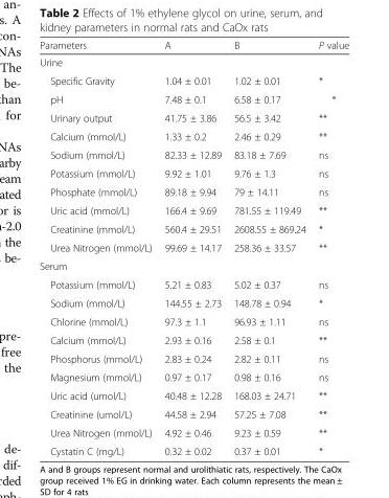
<table><thead><tr><td>Parameters</td><td>A</td><td>B</td><td>P value</td></tr></thead><tbody><tr><td colspan="4">Urine</td></tr><tr><td>Specific Gravity</td><td>1.04 ± 0.01</td><td>1.02 ± 0.01</td><td>*</td></tr><tr><td>pH</td><td>7.48 ± 0.1</td><td>6.58 ± 0.17</td><td>*</td></tr><tr><td>Urinary output</td><td>41.75 ± 3.86</td><td>56.5 ± 3.42</td><td>**</td></tr><tr><td>Calcium (mmol/L)</td><td>1.33 ± 0.2</td><td>2.46 ± 0.29</td><td>**</td></tr><tr><td>Sodium (mmol/L)</td><td>82.33 ± 12.89</td><td>83.18 ± 7.69</td><td>ns</td></tr><tr><td>Potassium (mmol/L)</td><td>9.92 ± 1.01</td><td>9.76 ± 1.3</td><td>ns</td></tr><tr><td>Phosphate (mmol/L)</td><td>89.18 ± 9.94</td><td>79 ± 14.11</td><td>ns</td></tr><tr><td>Uric acid (mmol/L)</td><td>166.4 ± 9.69</td><td>781.55 ± 119.49</td><td>**</td></tr><tr><td>Creatinine (mmol/L)</td><td>560.4 ± 29.51</td><td>2608.55 ± 869.24</td><td>*</td></tr><tr><td>Urea Nitrogen (mmol/L)</td><td>99.69 ± 14.17</td><td>258.36 ± 33.57</td><td>**</td></tr><tr><td colspan="4">Serum</td></tr><tr><td>Potassium (mmol/L)</td><td>5.21 ± 0.83</td><td>5.02 ± 0.37</td><td>ns</td></tr><tr><td>Sodium (mmol/L)</td><td>144.55 ± 2.73</td><td>148.78 ± 0.94</td><td>*</td></tr><tr><td>Chlorine (mmol/L)</td><td>97.3 ± 1.1</td><td>96.93 ± 1.11</td><td>ns</td></tr><tr><td>Calcium (mmol/L)</td><td>2.93 ± 0.16</td><td>2.58 ± 0.1</td><td>**</td></tr><tr><td>Phosphorus (mmol/L)</td><td>2.83 ± 0.24</td><td>2.82 ± 0.11</td><td>ns</td></tr><tr><td>Magnesium (mmol/L)</td><td>0.97 ± 0.17</td><td>0.98 ± 0.16</td><td>ns</td></tr><tr><td>Uric acid (umol/L)</td><td>40.48 ± 12.28</td><td>168.03 ± 24.71</td><td>**</td></tr><tr><td>Creatinine (umol/L)</td><td>44.58 ± 2.94</td><td>57.25 ± 7.08</td><td>**</td></tr><tr><td>Urea Nitrogen (mmol/L)</td><td>4.92 ± 0.46</td><td>9.23 ± 0.59</td><td>**</td></tr><tr><td>Cystatin C (mg/L)</td><td>0.32 ± 0.02</td><td>0.37 ± 0.01</td><td>*</td></tr></tbody></table>